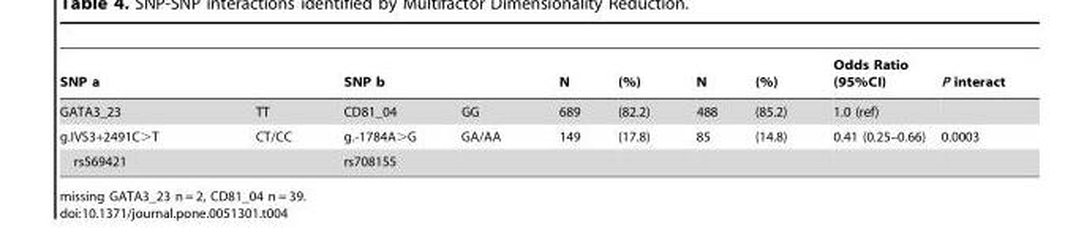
<table><thead><tr><td>SNP a</td><td></td><td>SNP b</td><td></td><td>N</td><td>(%)</td><td>N</td><td>(%)</td><td>Odds Ratio (95%CI)</td><td>P interact</td></tr></thead><tbody><tr><td>GATA3_23</td><td>TT</td><td>CD81_04</td><td>GG</td><td>689</td><td>(82.2)</td><td>488</td><td>(85.2)</td><td>1.0 (ref)</td><td></td></tr><tr><td>g.IVS3+2491C&gt;T</td><td>CT/CC</td><td>g.-1784A&gt;G</td><td>GA/AA</td><td>149</td><td>(17.8)</td><td>85</td><td>(14.8)</td><td>0.41 (0.25–0.66)</td><td>0.0003</td></tr><tr><td>rs569421</td><td></td><td>rs708155</td><td></td><td></td><td></td><td></td><td></td><td></td><td></td></tr></tbody></table>